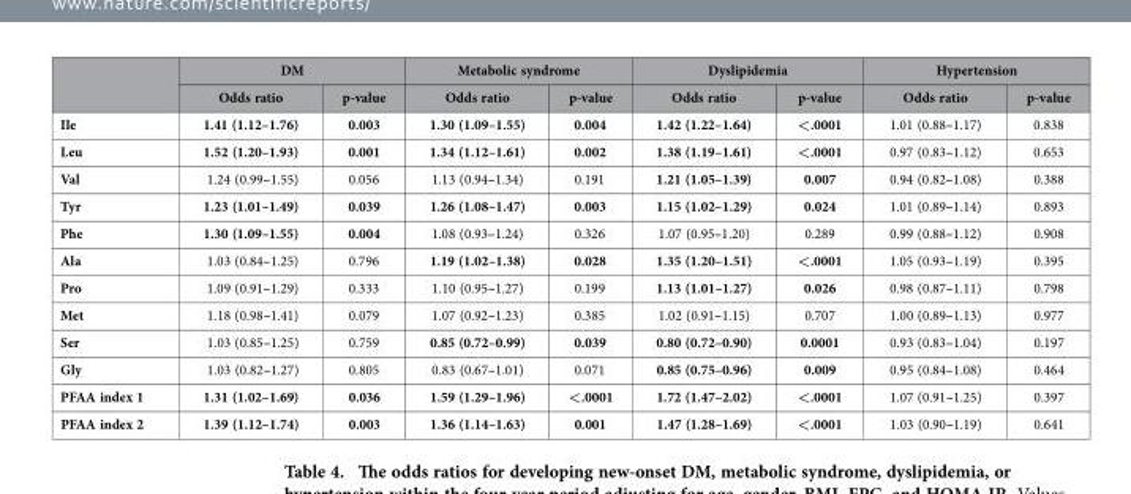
<table><thead><tr><td rowspan="2"></td><td colspan="2">DM</td><td colspan="2">Metabolic syndrome</td><td colspan="2">Dyslipidemia</td><td colspan="2">Hypertension</td></tr><tr><td>Odds ratio</td><td>p-value</td><td>Odds ratio</td><td>p-value</td><td>Odds ratio</td><td>p-value</td><td>Odds ratio</td><td>p-value</td></tr></thead><tbody><tr><td>Ile</td><td>1.41 (1.12–1.76)</td><td>0.003</td><td>1.30 (1.09–1.55)</td><td>0.004</td><td>1.42 (1.22–1.64)</td><td>&lt;.0001</td><td>1.01 (0.88–1.17)</td><td>0.838</td></tr><tr><td>Leu</td><td>1.52 (1.20–1.93)</td><td>0.001</td><td>1.34 (1.12–1.61)</td><td>0.002</td><td>1.38 (1.19–1.61)</td><td>&lt;.0001</td><td>0.97 (0.83–1.12)</td><td>0.653</td></tr><tr><td>Val</td><td>1.24 (0.99–1.55)</td><td>0.056</td><td>1.13 (0.94–1.34)</td><td>0.191</td><td>1.21 (1.05–1.39)</td><td>0.007</td><td>0.94 (0.82–1.08)</td><td>0.388</td></tr><tr><td>Tyr</td><td>1.23 (1.01–1.49)</td><td>0.039</td><td>1.26 (1.08–1.47)</td><td>0.003</td><td>1.15 (1.02–1.29)</td><td>0.024</td><td>1.01 (0.89–1.14)</td><td>0.893</td></tr><tr><td>Phe</td><td>1.30 (1.09–1.55)</td><td>0.004</td><td>1.08 (0.93–1.24)</td><td>0.326</td><td>1.07 (0.95–1.20)</td><td>0.289</td><td>0.99 (0.88–1.12)</td><td>0.908</td></tr><tr><td>Ala</td><td>1.03 (0.84–1.25)</td><td>0.796</td><td>1.19 (1.02–1.38)</td><td>0.028</td><td>1.35 (1.20–1.51)</td><td>&lt;.0001</td><td>1.05 (0.93–1.19)</td><td>0.395</td></tr><tr><td>Pro</td><td>1.09 (0.91–1.29)</td><td>0.333</td><td>1.10 (0.95–1.27)</td><td>0.199</td><td>1.13 (1.01–1.27)</td><td>0.026</td><td>0.98 (0.87–1.11)</td><td>0.798</td></tr><tr><td>Met</td><td>1.18 (0.98–1.41)</td><td>0.079</td><td>1.07 (0.92–1.23)</td><td>0.385</td><td>1.02 (0.91–1.15)</td><td>0.707</td><td>1.00 (0.89–1.13)</td><td>0.977</td></tr><tr><td>Ser</td><td>1.03 (0.85–1.25)</td><td>0.759</td><td>0.85 (0.72–0.99)</td><td>0.039</td><td>0.80 (0.72–0.90)</td><td>0.0001</td><td>0.93 (0.83–1.04)</td><td>0.197</td></tr><tr><td>Gly</td><td>1.03 (0.82–1.27)</td><td>0.805</td><td>0.83 (0.67–1.01)</td><td>0.071</td><td>0.85 (0.75–0.96)</td><td>0.009</td><td>0.95 (0.84–1.08)</td><td>0.464</td></tr><tr><td>PFAA index 1</td><td>1.31 (1.02–1.69)</td><td>0.036</td><td>1.59 (1.29–1.96)</td><td>&lt;.0001</td><td>1.72 (1.47–2.02)</td><td>&lt;.0001</td><td>1.07 (0.91–1.25)</td><td>0.397</td></tr><tr><td>PFAA index 2</td><td>1.39 (1.12–1.74)</td><td>0.003</td><td>1.36 (1.14–1.63)</td><td>0.001</td><td>1.47 (1.28–1.69)</td><td>&lt;.0001</td><td>1.03 (0.90–1.19)</td><td>0.641</td></tr></tbody></table>